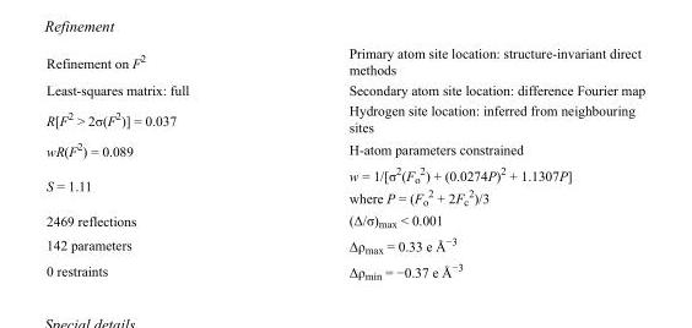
<table><tbody><tr><td>Refinement on F<sup>2</sup></td><td>Primary atom site location: structure-invariant direct methods</td></tr><tr><td>Least-squares matrix: full</td><td>Secondary atom site location: difference Fourier map</td></tr><tr><td>R[F<sup>2</sup> &gt; 2σ(F<sup>2</sup>)] = 0.037</td><td>Hydrogen site location: inferred from neighbouring sites</td></tr><tr><td>wR(F<sup>2</sup>) = 0.089</td><td>H-atom parameters constrained</td></tr><tr><td>S = 1.11</td><td>w = 1/[σ<sup>2</sup>(F<sub>o</sub> <sup>2</sup>) + (0.0274P)<sup>2</sup> + 1.1307P] where P = (F<sub>o</sub> <sup>2</sup> + 2F<sub>c</sub> <sup>2</sup>)/3</td></tr><tr><td>2469 reflections</td><td>(Δ/σ)<sub>max</sub> &lt; 0.001</td></tr><tr><td>142 parameters</td><td>Δρ<sub>max</sub> = 0.33 e Å<sup>−3</sup></td></tr><tr><td>0 restraints</td><td>Δρ<sub>min</sub> = −0.37 e Å<sup>−3</sup></td></tr></tbody></table>